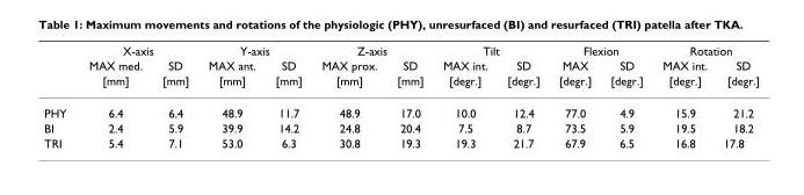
<table><thead><tr><td rowspan="3"></td><td colspan="2">X-axis</td><td colspan="2">Y-axis</td><td colspan="2">Z-axis</td><td colspan="2">Tilt</td><td colspan="2">Flexion</td><td colspan="2">Rotation</td></tr><tr><td rowspan="2">MAX med. [mm]</td><td rowspan="2">SD [mm]</td><td rowspan="2">MAX ant. [mm]</td><td rowspan="2">SD [mm]</td><td rowspan="2">MAX prox. [mm]</td><td rowspan="2">SD [mm]</td><td rowspan="2">MAX int. [degr.]</td><td rowspan="2">SD [degr.]</td><td rowspan="2">MAX [degr.]</td><td rowspan="2">SD [degr.]</td><td rowspan="2">MAX int. [degr.]</td><td rowspan="2">SD [degr.]</td></tr><tr></tr></thead><tbody><tr><td>PHY</td><td>6.4</td><td>6.4</td><td>48.9</td><td>11.7</td><td>48.9</td><td>17.0</td><td>10.0</td><td>12.4</td><td>77.0</td><td>4.9</td><td>15.9</td><td>21.2</td></tr><tr><td>BI</td><td>2.4</td><td>5.9</td><td>39.9</td><td>14.2</td><td>24.8</td><td>20.4</td><td>7.5</td><td>8.7</td><td>73.5</td><td>5.9</td><td>19.5</td><td>18.2</td></tr><tr><td>TRI</td><td>5.4</td><td>7.1</td><td>53.0</td><td>6.3</td><td>30.8</td><td>19.3</td><td>19.3</td><td>21.7</td><td>67.9</td><td>6.5</td><td>16.8</td><td>17.8</td></tr></tbody></table>